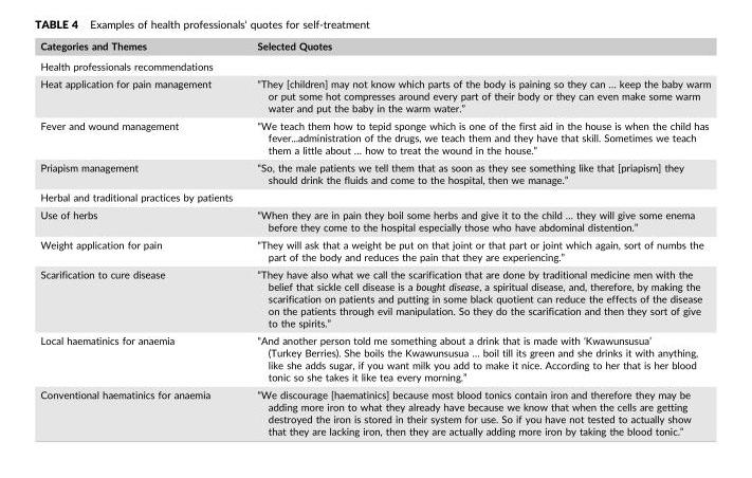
<table><thead><tr><td>Categories and Themes</td><td>Selected Quotes</td></tr></thead><tbody><tr><td colspan="2">Health professionals recommendations</td></tr><tr><td>Heat application for pain management</td><td>“They [children] may not know which parts of the body is paining so they can … keep the baby warm or put some hot compresses around every part of their body or they can even make some warm water and put the baby in the warm water.”</td></tr><tr><td>Fever and wound management</td><td>“We teach them how to tepid sponge which is one of the first aid in the house is when the child has fever...administration of the drugs, we teach them and they have that skill. Sometimes we teach them a little about … how to treat the wound in the house.”</td></tr><tr><td>Priapism management</td><td>“So, the male patients we tell them that as soon as they see something like that [priapism] they should drink the fluids and come to the hospital, then we manage.”</td></tr><tr><td colspan="2">Herbal and traditional practices by patients</td></tr><tr><td>Use of herbs</td><td>“When they are in pain they boil some herbs and give it to the child … they will give some enema before they come to the hospital especially those who have abdominal distention.”</td></tr><tr><td>Weight application for pain</td><td>“They will ask that a weight be put on that joint or that part or joint which again, sort of numbs the part of the body and reduces the pain that they are experiencing.”</td></tr><tr><td>Scarification to cure disease</td><td>“They have also what we call the scarification that are done by traditional medicine men with the belief that sickle cell disease is a bought disease, a spiritual disease, and, therefore, by making the scarification on patients and putting in some black quotient can reduce the effects of the disease on the patients through evil manipulation. So they do the scarification and then they sort of give to the spirits.”</td></tr><tr><td>Local haematinics for anaemia</td><td>“And another person told me something about a drink that is made with ‘Kwawunsusua’ (Turkey Berries). She boils the Kwawunsusua … boil till its green and she drinks it with anything, like she adds sugar, if you want milk you add to make it nice. According to her that is her blood tonic so she takes it like tea every morning.”</td></tr><tr><td>Conventional haematinics for anaemia</td><td>“We discourage [haematinics] because most blood tonics contain iron and therefore they may be adding more iron to what they already have because we know that when the cells are getting destroyed the iron is stored in their system for use. So if you have not tested to actually show that they are lacking iron, then they are actually adding more iron by taking the blood tonic.”</td></tr></tbody></table>